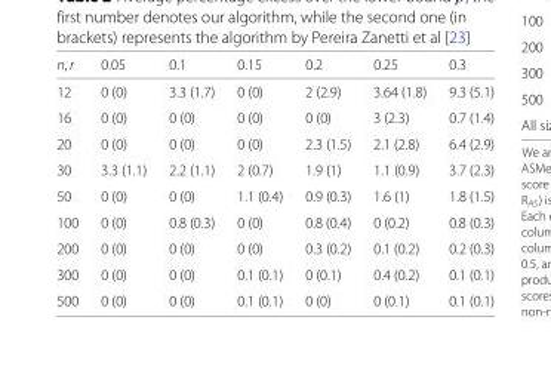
<table><thead><tr><td>n, r</td><td>0.05</td><td>0.1</td><td>0.15</td><td>0.2</td><td>0.25</td><td>0.3</td></tr></thead><tbody><tr><td>12</td><td>0 (0)</td><td>3.3 (1.7)</td><td>0 (0)</td><td>2 (2.9)</td><td>3.64 (1.8)</td><td>9.3 (5.1)</td></tr><tr><td>16</td><td>0 (0)</td><td>0 (0)</td><td>0 (0)</td><td>0 (0)</td><td>3 (2.3)</td><td>0.7 (1.4)</td></tr><tr><td>20</td><td>0 (0)</td><td>0 (0)</td><td>0 (0)</td><td>2.3 (1.5)</td><td>2.1 (2.8)</td><td>6.4 (2.9)</td></tr><tr><td>30</td><td>3.3 (1.1)</td><td>2.2 (1.1)</td><td>2 (0.7)</td><td>1.9 (1)</td><td>1.1 (0.9)</td><td>3.7 (2.3)</td></tr><tr><td>50</td><td>0 (0)</td><td>0 (0)</td><td>1.1 (0.4)</td><td>0.9 (0.3)</td><td>1.6 (1)</td><td>1.8 (1.5)</td></tr><tr><td>100</td><td>0 (0)</td><td>0.8 (0.3)</td><td>0 (0)</td><td>0.8 (0.4)</td><td>0 (0.2)</td><td>0.8 (0.3)</td></tr><tr><td>200</td><td>0 (0)</td><td>0 (0)</td><td>0 (0)</td><td>0.3 (0.2)</td><td>0.1 (0.2)</td><td>0.2 (0.3)</td></tr><tr><td>300</td><td>0 (0)</td><td>0 (0)</td><td>0.1 (0.1)</td><td>0 (0.1)</td><td>0.4 (0.2)</td><td>0.1 (0.1)</td></tr><tr><td>500</td><td>0 (0)</td><td>0 (0)</td><td>0.1 (0.1)</td><td>0 (0)</td><td>0 (0.1)</td><td>0.1 (0.1)</td></tr></tbody></table>